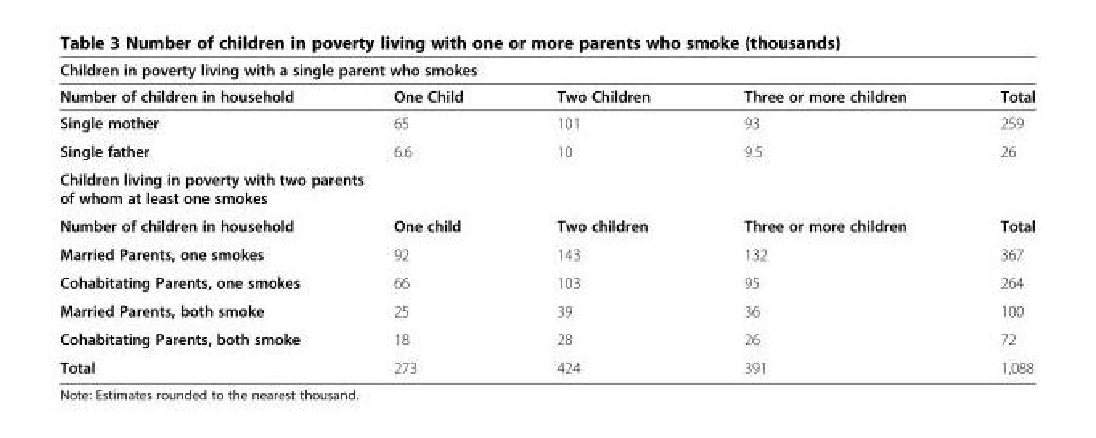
<table><thead><tr><td colspan="5">Children in poverty living with a single parent who smokes</td></tr><tr><td>Number of children in household</td><td>One Child</td><td>Two Children</td><td>Three or more children</td><td>Total</td></tr></thead><tbody><tr><td>Single mother</td><td>65</td><td>101</td><td>93</td><td>259</td></tr><tr><td>Single father</td><td>6.6</td><td>10</td><td>9.5</td><td>26</td></tr><tr><td colspan="5">Children living in poverty with two parents of whom at least one smokes</td></tr><tr><td>Number of children in household</td><td>One child</td><td>Two children</td><td>Three or more children</td><td>Total</td></tr><tr><td>Married Parents, one smokes</td><td>92</td><td>143</td><td>132</td><td>367</td></tr><tr><td>Cohabitating Parents, one smokes</td><td>66</td><td>103</td><td>95</td><td>264</td></tr><tr><td>Married Parents, both smoke</td><td>25</td><td>39</td><td>36</td><td>100</td></tr><tr><td>Cohabitating Parents, both smoke</td><td>18</td><td>28</td><td>26</td><td>72</td></tr><tr><td>Total</td><td>273</td><td>424</td><td>391</td><td>1,088</td></tr></tbody></table>